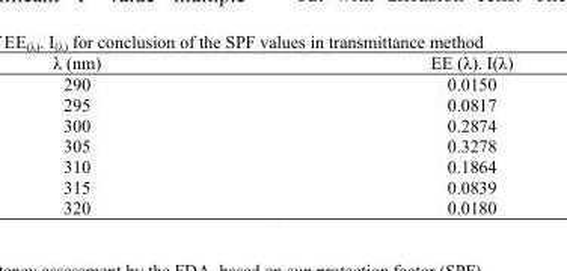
<table><thead><tr><td>λ (nm)</td><td>EE (λ). I(λ)</td></tr></thead><tbody><tr><td>290</td><td>0.0150</td></tr><tr><td>295</td><td>0.0817</td></tr><tr><td>300</td><td>0.2874</td></tr><tr><td>305</td><td>0.3278</td></tr><tr><td>310</td><td>0.1864</td></tr><tr><td>315</td><td>0.0839</td></tr><tr><td>320</td><td>0.0180</td></tr></tbody></table>